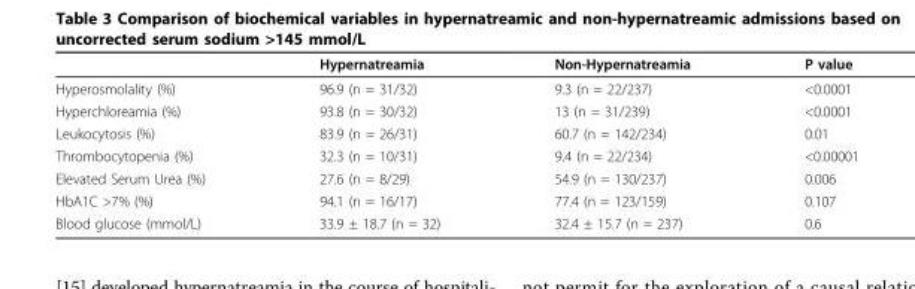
<table><thead><tr><td></td><td>Hypernatreamia</td><td>Non-Hypernatreamia</td><td>P value</td></tr></thead><tbody><tr><td>Hyperosmolality (%)</td><td>96.9 (n = 31/32)</td><td>9.3 (n = 22/237)</td><td>&lt;0.0001</td></tr><tr><td>Hyperchloreamia (%)</td><td>93.8 (n = 30/32)</td><td>13 (n = 31/239)</td><td>&lt;0.0001</td></tr><tr><td>Leukocytosis (%)</td><td>83.9 (n = 26/31)</td><td>60.7 (n = 142/234)</td><td>0.01</td></tr><tr><td>Thrombocytopenia (%)</td><td>32.3 (n = 10/31)</td><td>9.4 (n = 22/234)</td><td>&lt;0.00001</td></tr><tr><td>Elevated Serum Urea (%)</td><td>27.6 (n = 8/29)</td><td>54.9 (n = 130/237)</td><td>0.006</td></tr><tr><td>HbA1C &gt;7% (%)</td><td>94.1 (n = 16/17)</td><td>77.4 (n = 123/159)</td><td>0.107</td></tr><tr><td>Blood glucose (mmol/L)</td><td>33.9 ± 18.7 (n = 32)</td><td>32.4 ± 15.7 (n = 237)</td><td>0.6</td></tr></tbody></table>